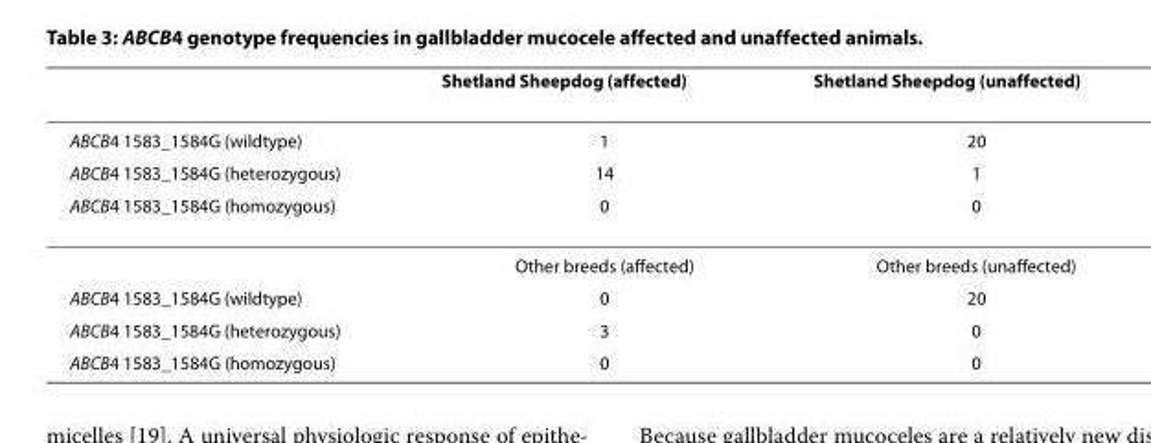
<table><thead><tr><td></td><td>Shetland Sheepdog (affected)</td><td>Shetland Sheepdog (unaffected)</td></tr></thead><tbody><tr><td>ABCB4 1583_1584G (wildtype)</td><td>1</td><td>20</td></tr><tr><td>ABCB4 1583_1584G (heterozygous)</td><td>14</td><td>1</td></tr><tr><td rowspan="2">ABCB4 1583_1584G (homozygous)</td><td>0</td><td>0</td></tr><tr><td>Other breeds (affected)</td><td>Other breeds (unaffected)</td></tr><tr><td>ABCB4 1583_1584G (wildtype)</td><td>0</td><td>20</td></tr><tr><td>ABCB4 1583_1584G (heterozygous)</td><td>3</td><td>0</td></tr><tr><td>ABCB4 1583_1584G (homozygous)</td><td>0</td><td>0</td></tr></tbody></table>